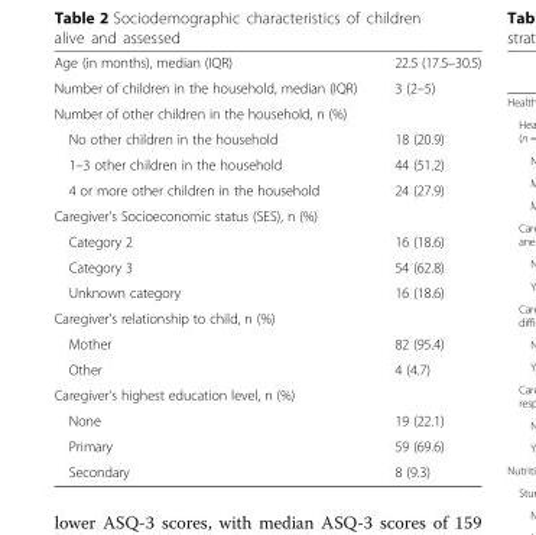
<table><tbody><tr><td>Age (in months), median (IQR)</td><td>22.5 (17.5–30.5)</td></tr><tr><td>Number of children in the household, median (IQR)</td><td>3 (2–5)</td></tr><tr><td colspan="2">Number of other children in the household, n (%)</td></tr><tr><td>No other children in the household</td><td>18 (20.9)</td></tr><tr><td>1–3 other children in the household</td><td>44 (51.2)</td></tr><tr><td>4 or more other children in the household</td><td>24 (27.9)</td></tr><tr><td colspan="2">Caregiver’s Socioeconomic status (SES), n (%)</td></tr><tr><td>Category 2</td><td>16 (18.6)</td></tr><tr><td>Category 3</td><td>54 (62.8)</td></tr><tr><td>Unknown category</td><td>16 (18.6)</td></tr><tr><td colspan="2">Caregiver’s relationship to child, n (%)</td></tr><tr><td>Mother</td><td>82 (95.4)</td></tr><tr><td>Other</td><td>4 (4.7)</td></tr><tr><td colspan="2">Caregiver’s highest education level, n (%)</td></tr><tr><td>None</td><td>19 (22.1)</td></tr><tr><td>Primary</td><td>59 (69.6)</td></tr><tr><td>Secondary</td><td>8 (9.3)</td></tr></tbody></table>